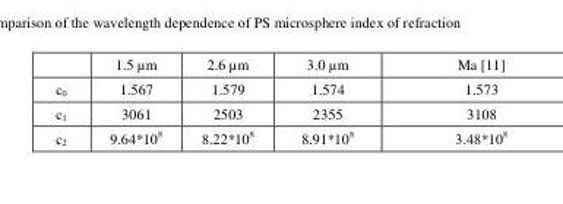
<table><thead><tr><td></td><td>1.5 µm</td><td>2.6 µm</td><td>3.0 µm</td><td>Ma [11]</td></tr></thead><tbody><tr><td>c<sub>0</sub></td><td>1.567</td><td>1.579</td><td>1.574</td><td>1.573</td></tr><tr><td>c<sub>1</sub></td><td>3061</td><td>2503</td><td>2355</td><td>3108</td></tr><tr><td>c<sub>2</sub></td><td>9.64*10<sup>8</sup></td><td>8.22*10<sup>8</sup></td><td>8.91*10<sup>8</sup></td><td>3.48*10<sup>8</sup></td></tr></tbody></table>